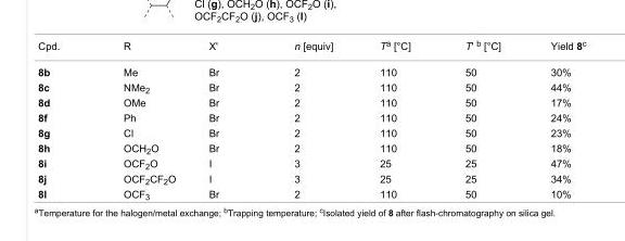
<table><tbody><tr><td>Cpd.</td><td>R</td><td>X&#x27;</td><td>n [equiv]</td><td>T<sup>a</sup> [°C]</td><td>T&#x27; <sup>b</sup> [°C]</td><td>Yield 8<sup>c</sup></td></tr><tr><td>8b</td><td>Me</td><td>Br</td><td>2</td><td>110</td><td>50</td><td>30%</td></tr><tr><td>8c</td><td>NMe<sub>2</sub></td><td>Br</td><td>2</td><td>110</td><td>50</td><td>44%</td></tr><tr><td>8d</td><td>OMe</td><td>Br</td><td>2</td><td>110</td><td>50</td><td>17%</td></tr><tr><td>8f</td><td>Ph</td><td>Br</td><td>2</td><td>110</td><td>50</td><td>24%</td></tr><tr><td>8g</td><td>Cl</td><td>Br</td><td>2</td><td>110</td><td>50</td><td>23%</td></tr><tr><td>8h</td><td>OCH<sub>2</sub>O</td><td>Br</td><td>2</td><td>110</td><td>50</td><td>18%</td></tr><tr><td>8i</td><td>OCF<sub>2</sub>O</td><td>I</td><td>3</td><td>25</td><td>25</td><td>47%</td></tr><tr><td>8j</td><td>OCF<sub>2</sub>CF<sub>2</sub>O</td><td>I</td><td>3</td><td>25</td><td>25</td><td>34%</td></tr><tr><td>8l</td><td>OCF<sub>3</sub></td><td>Br</td><td>2</td><td>110</td><td>50</td><td>10%</td></tr></tbody></table>